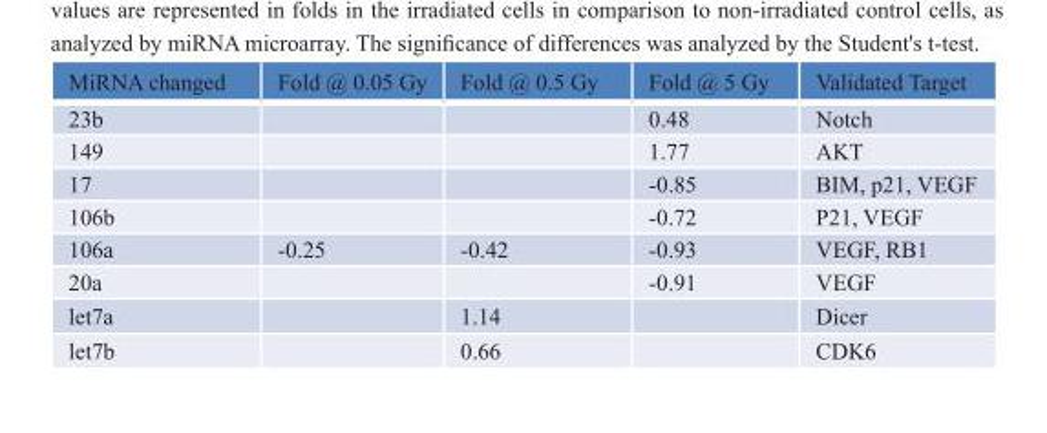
<table><thead><tr><td>MiRNA changed</td><td>Fold @ 0.05 Gy</td><td>Fold @ 0.5 Gy</td><td>Fold @ 5 Gy</td><td>Validated Target</td></tr></thead><tbody><tr><td>23b</td><td></td><td></td><td>0.48</td><td>Notch</td></tr><tr><td>149</td><td></td><td></td><td>1.77</td><td>AKT</td></tr><tr><td>17</td><td></td><td></td><td>-0.85</td><td>BIM, p21, VEGF</td></tr><tr><td>106b</td><td></td><td></td><td>-0.72</td><td>P21, VEGF</td></tr><tr><td>106a</td><td>-0.25</td><td>-0.42</td><td>-0.93</td><td>VEGF, RB1</td></tr><tr><td>20a</td><td></td><td></td><td>-0.91</td><td>VEGF</td></tr><tr><td>let7a</td><td></td><td>1.14</td><td></td><td>Dicer</td></tr><tr><td>let7b</td><td></td><td>0.66</td><td></td><td>CDK6</td></tr></tbody></table>